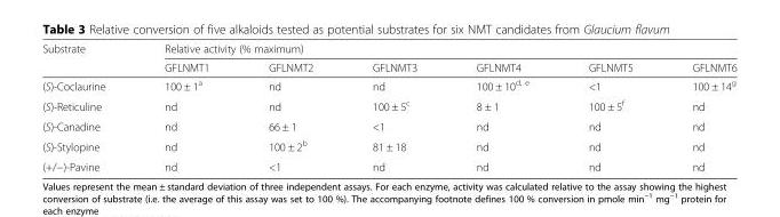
<table><thead><tr><td rowspan="2">Substrate</td><td colspan="6">Relative activity (% maximum)</td></tr><tr><td>GFLNMT1</td><td>GFLNMT2</td><td>GFLNMT3</td><td>GFLNMT4</td><td>GFLNMT5</td><td>GFLNMT6</td></tr></thead><tbody><tr><td>(S)-Coclaurine</td><td>100 ± 1<sup>a</sup></td><td>nd</td><td>nd</td><td>100 ± 10<sup>d, e</sup></td><td>&lt;1</td><td>100 ± 14<sup>g</sup></td></tr><tr><td>(S)-Reticuline</td><td>nd</td><td>nd</td><td>100 ± 5<sup>c</sup></td><td>8 ± 1</td><td>100 ± 5<sup>f</sup></td><td>nd</td></tr><tr><td>(S)-Canadine</td><td>nd</td><td>66 ± 1</td><td>&lt;1</td><td>nd</td><td>nd</td><td>nd</td></tr><tr><td>(S)-Stylopine</td><td>nd</td><td>100 ± 2<sup>b</sup></td><td>81 ± 18</td><td>nd</td><td>nd</td><td>nd</td></tr><tr><td>(+/−)-Pavine</td><td>nd</td><td>&lt;1</td><td>nd</td><td>nd</td><td>nd</td><td>nd</td></tr></tbody></table>